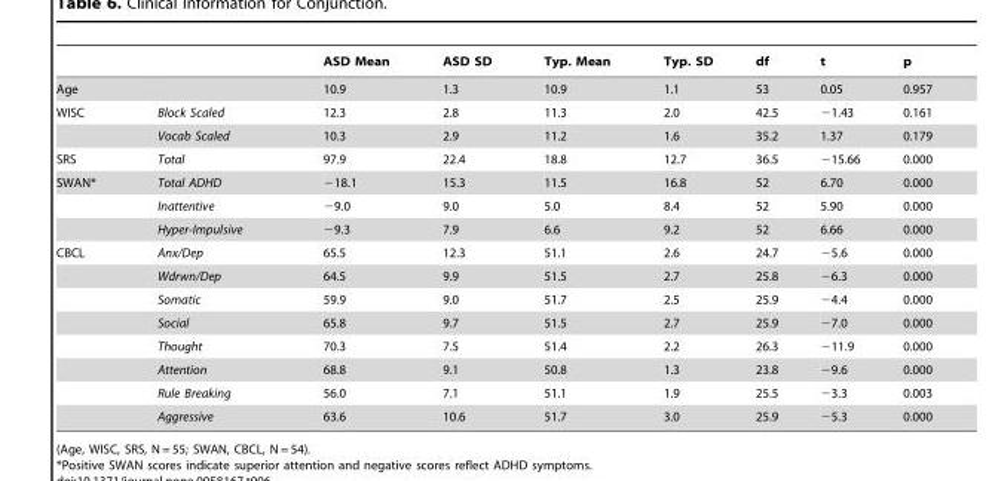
<table><thead><tr><td></td><td></td><td>ASD Mean</td><td>ASD SD</td><td>Typ. Mean</td><td>Typ. SD</td><td>df</td><td>t</td><td>p</td></tr></thead><tbody><tr><td>Age</td><td></td><td>10.9</td><td>1.3</td><td>10.9</td><td>1.1</td><td>53</td><td>0.05</td><td>0.957</td></tr><tr><td rowspan="2">WISC</td><td>Block Scaled</td><td>12.3</td><td>2.8</td><td>11.3</td><td>2.0</td><td>42.5</td><td>−1.43</td><td>0.161</td></tr><tr><td>Vocab Scaled</td><td>10.3</td><td>2.9</td><td>11.2</td><td>1.6</td><td>35.2</td><td>1.37</td><td>0.179</td></tr><tr><td>SRS</td><td>Total</td><td>97.9</td><td>22.4</td><td>18.8</td><td>12.7</td><td>36.5</td><td>−15.66</td><td>0.000</td></tr><tr><td rowspan="3">SWAN*</td><td>Total ADHD</td><td>−18.1</td><td>15.3</td><td>11.5</td><td>16.8</td><td>52</td><td>6.70</td><td>0.000</td></tr><tr><td>Inattentive</td><td>−9.0</td><td>9.0</td><td>5.0</td><td>8.4</td><td>52</td><td>5.90</td><td>0.000</td></tr><tr><td>Hyper-Impulsive</td><td>−9.3</td><td>7.9</td><td>6.6</td><td>9.2</td><td>52</td><td>6.66</td><td>0.000</td></tr><tr><td rowspan="8">CBCL</td><td>Anx/Dep</td><td>65.5</td><td>12.3</td><td>51.1</td><td>2.6</td><td>24.7</td><td>−5.6</td><td>0.000</td></tr><tr><td>Wdrwn/Dep</td><td>64.5</td><td>9.9</td><td>51.5</td><td>2.7</td><td>25.8</td><td>−6.3</td><td>0.000</td></tr><tr><td>Somatic</td><td>59.9</td><td>9.0</td><td>51.7</td><td>2.5</td><td>25.9</td><td>−4.4</td><td>0.000</td></tr><tr><td>Social</td><td>65.8</td><td>9.7</td><td>51.5</td><td>2.7</td><td>25.9</td><td>−7.0</td><td>0.000</td></tr><tr><td>Thought</td><td>70.3</td><td>7.5</td><td>51.4</td><td>2.2</td><td>26.3</td><td>−11.9</td><td>0.000</td></tr><tr><td>Attention</td><td>68.8</td><td>9.1</td><td>50.8</td><td>1.3</td><td>23.8</td><td>−9.6</td><td>0.000</td></tr><tr><td>Rule Breaking</td><td>56.0</td><td>7.1</td><td>51.1</td><td>1.9</td><td>25.5</td><td>−3.3</td><td>0.003</td></tr><tr><td>Aggressive</td><td>63.6</td><td>10.6</td><td>51.7</td><td>3.0</td><td>25.9</td><td>−5.3</td><td>0.000</td></tr></tbody></table>